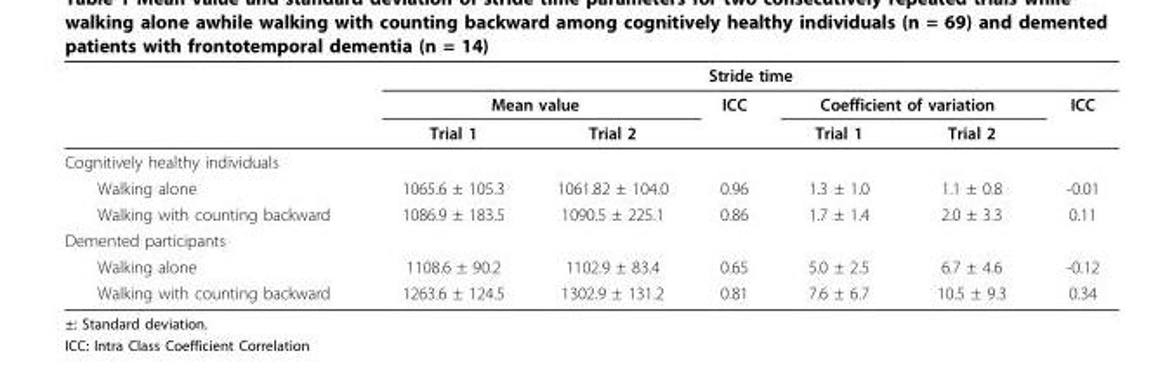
<table><thead><tr><td rowspan="3"></td><td colspan="6">Stride time</td></tr><tr><td colspan="2">Mean value</td><td rowspan="2">ICC</td><td colspan="2">Coefficient of variation</td><td rowspan="2">ICC</td></tr><tr><td>Trial 1</td><td>Trial 2</td><td>Trial 1</td><td>Trial 2</td></tr></thead><tbody><tr><td colspan="7">Cognitively healthy individuals</td></tr><tr><td>Walking alone</td><td>1065.6 ± 105.3</td><td>1061.82 ± 104.0</td><td>0.96</td><td>1.3 ± 1.0</td><td>1.1 ± 0.8</td><td>-0.01</td></tr><tr><td>Walking with counting backward</td><td>1086.9 ± 183.5</td><td>1090.5 ± 225.1</td><td>0.86</td><td>1.7 ± 1.4</td><td>2.0 ± 3.3</td><td>0.11</td></tr><tr><td colspan="7">Demented participants</td></tr><tr><td>Walking alone</td><td>1108.6 ± 90.2</td><td>1102.9 ± 83.4</td><td>0.65</td><td>5.0 ± 2.5</td><td>6.7 ± 4.6</td><td>-0.12</td></tr><tr><td>Walking with counting backward</td><td>1263.6 ± 124.5</td><td>1302.9 ± 131.2</td><td>0.81</td><td>7.6 ± 6.7</td><td>10.5 ± 9.3</td><td>0.34</td></tr></tbody></table>